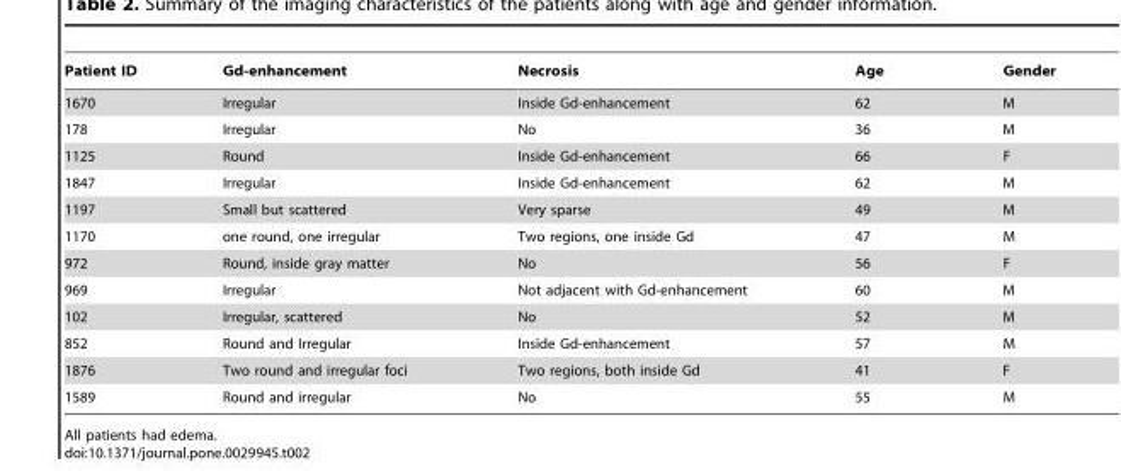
<table><thead><tr><td>Patient ID</td><td>Gd-enhancement</td><td>Necrosis</td><td>Age</td><td>Gender</td></tr></thead><tbody><tr><td>1670</td><td>Irregular</td><td>Inside Gd-enhancement</td><td>62</td><td>M</td></tr><tr><td>178</td><td>Irregular</td><td>No</td><td>36</td><td>M</td></tr><tr><td>1125</td><td>Round</td><td>Inside Gd-enhancement</td><td>66</td><td>F</td></tr><tr><td>1847</td><td>Irregular</td><td>Inside Gd-enhancement</td><td>62</td><td>M</td></tr><tr><td>1197</td><td>Small but scattered</td><td>Very sparse</td><td>49</td><td>M</td></tr><tr><td>1170</td><td>one round, one irregular</td><td>Two regions, one inside Gd</td><td>47</td><td>M</td></tr><tr><td>972</td><td>Round, inside gray matter</td><td>No</td><td>56</td><td>F</td></tr><tr><td>969</td><td>Irregular</td><td>Not adjacent with Gd-enhancement</td><td>60</td><td>M</td></tr><tr><td>102</td><td>Irregular, scattered</td><td>No</td><td>52</td><td>M</td></tr><tr><td>852</td><td>Round and Irregular</td><td>Inside Gd-enhancement</td><td>57</td><td>M</td></tr><tr><td>1876</td><td>Two round and irregular foci</td><td>Two regions, both inside Gd</td><td>41</td><td>F</td></tr><tr><td>1589</td><td>Round and irregular</td><td>No</td><td>55</td><td>M</td></tr></tbody></table>